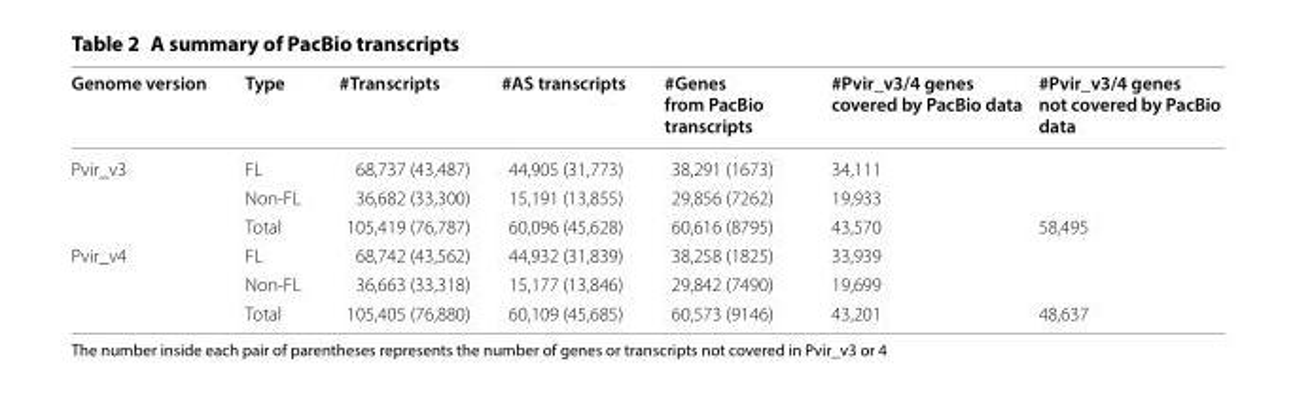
<table><thead><tr><td>Genome version</td><td>Type</td><td>#Transcripts</td><td>#AS transcripts</td><td>#Genes from PacBio transcripts</td><td>#Pvir_v3/4 genes covered by PacBio data</td><td>#Pvir_v3/4 genes not covered by PacBio data</td></tr></thead><tbody><tr><td rowspan="3">Pvir_v3</td><td>FL</td><td>68,737 (43,487)</td><td>44,905 (31,773)</td><td>38,291 (1673)</td><td>34,111</td><td></td></tr><tr><td>Non‑FL</td><td>36,682 (33,300)</td><td>15,191 (13,855)</td><td>29,856 (7262)</td><td>19,933</td><td></td></tr><tr><td>Total</td><td>105,419 (76,787)</td><td>60,096 (45,628)</td><td>60,616 (8795)</td><td>43,570</td><td>58,495</td></tr><tr><td rowspan="3">Pvir_v4</td><td>FL</td><td>68,742 (43,562)</td><td>44,932 (31,839)</td><td>38,258 (1825)</td><td>33,939</td><td></td></tr><tr><td>Non‑FL</td><td>36,663 (33,318)</td><td>15,177 (13,846)</td><td>29,842 (7490)</td><td>19,699</td><td></td></tr><tr><td>Total</td><td>105,405 (76,880)</td><td>60,109 (45,685)</td><td>60,573 (9146)</td><td>43,201</td><td>48,637</td></tr></tbody></table>